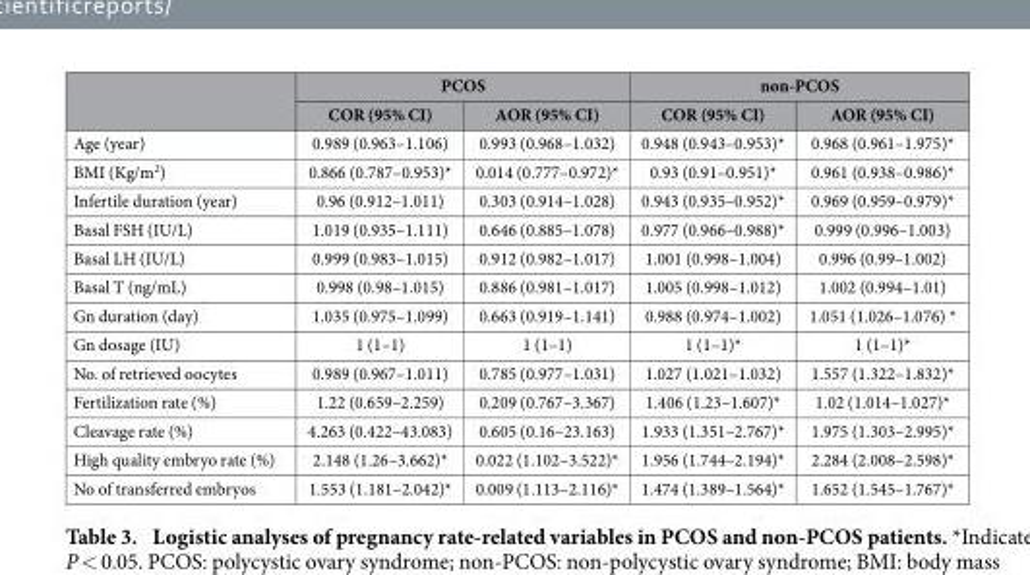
<table><thead><tr><td rowspan="2"></td><td colspan="2">PCOS</td><td colspan="2">non-PCOS</td></tr><tr><td>COR (95% CI)</td><td>AOR (95% CI)</td><td>COR (95% CI)</td><td>AOR (95% CI)</td></tr></thead><tbody><tr><td>Age (year)</td><td>0.989 (0.963–1.106)</td><td>0.993 (0.968–1.032)</td><td>0.948 (0.943–0.953)*</td><td>0.968 (0.961–1.975)*</td></tr><tr><td>BMI (Kg/m<sup>2</sup>)</td><td>0.866 (0.787–0.953)*</td><td>0.014 (0.777–0.972)*</td><td>0.93 (0.91–0.951)*</td><td>0.961 (0.938–0.986)*</td></tr><tr><td>Infertile duration (year)</td><td>0.96 (0.912–1.011)</td><td>0.303 (0.914–1.028)</td><td>0.943 (0.935–0.952)*</td><td>0.969 (0.959–0.979)*</td></tr><tr><td>Basal FSH (IU/L)</td><td>1.019 (0.935–1.111)</td><td>0.646 (0.885–1.078)</td><td>0.977 (0.966–0.988)*</td><td>0.999 (0.996–1.003)</td></tr><tr><td>Basal LH (IU/L)</td><td>0.999 (0.983–1.015)</td><td>0.912 (0.982–1.017)</td><td>1.001 (0.998–1.004)</td><td>0.996 (0.99–1.002)</td></tr><tr><td>Basal T (ng/mL)</td><td>0.998 (0.98–1.015)</td><td>0.886 (0.981–1.017)</td><td>1.005 (0.998–1.012)</td><td>1.002 (0.994–1.01)</td></tr><tr><td>Gn duration (day)</td><td>1.035 (0.975–1.099)</td><td>0.663 (0.919–1.141)</td><td>0.988 (0.974–1.002)</td><td>1.051 (1.026–1.076) *</td></tr><tr><td>Gn dosage (IU)</td><td>1 (1–1)</td><td>1 (1–1)</td><td>1 (1–1)*</td><td>1 (1–1)*</td></tr><tr><td>No. of retrieved oocytes</td><td>0.989 (0.967–1.011)</td><td>0.785 (0.977–1.031)</td><td>1.027 (1.021–1.032)</td><td>1.557 (1.322–1.832)*</td></tr><tr><td>Fertilization rate (%)</td><td>1.22 (0.659–2.259)</td><td>0.209 (0.767–3.367)</td><td>1.406 (1.23–1.607)*</td><td>1.02 (1.014–1.027)*</td></tr><tr><td>Cleavage rate (%)</td><td>4.263 (0.422–43.083)</td><td>0.605 (0.16–23.163)</td><td>1.933 (1.351–2.767)*</td><td>1.975 (1.303–2.995)*</td></tr><tr><td>High quality embryo rate (%)</td><td>2.148 (1.26–3.662)*</td><td>0.022 (1.102–3.522)*</td><td>1.956 (1.744–2.194)*</td><td>2.284 (2.008–2.598)*</td></tr><tr><td>No of transferred embryos</td><td>1.553 (1.181–2.042)*</td><td>0.009 (1.113–2.116)*</td><td>1.474 (1.389–1.564)*</td><td>1.652 (1.545–1.767)*</td></tr></tbody></table>